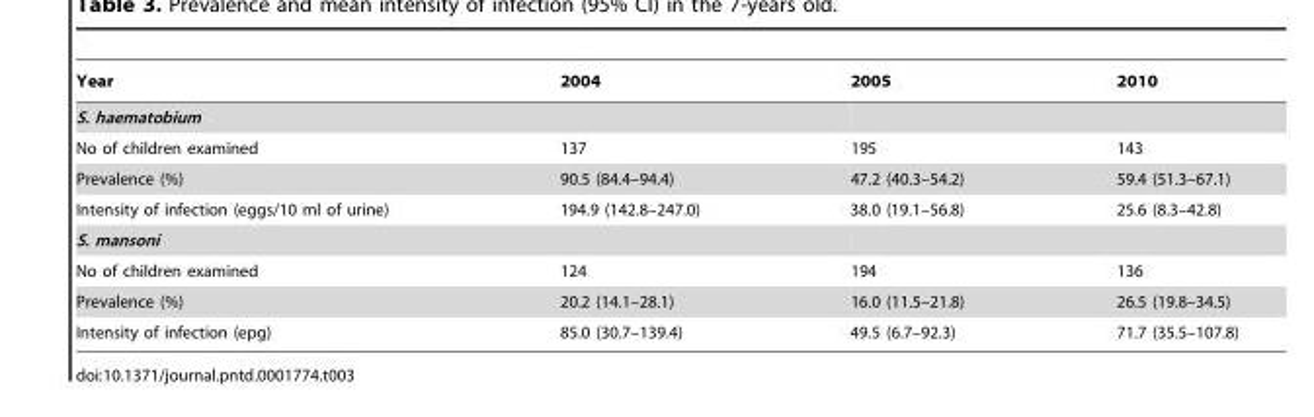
<table><thead><tr><td>Year</td><td>2004</td><td>2005</td><td>2010</td></tr></thead><tbody><tr><td colspan="4">S. haematobium</td></tr><tr><td>No of children examined</td><td>137</td><td>195</td><td>143</td></tr><tr><td>Prevalence (%)</td><td>90.5 (84.4–94.4)</td><td>47.2 (40.3–54.2)</td><td>59.4 (51.3–67.1)</td></tr><tr><td>Intensity of infection (eggs/10 ml of urine)</td><td>194.9 (142.8–247.0)</td><td>38.0 (19.1–56.8)</td><td>25.6 (8.3–42.8)</td></tr><tr><td colspan="4">S. mansoni</td></tr><tr><td>No of children examined</td><td>124</td><td>194</td><td>136</td></tr><tr><td>Prevalence (%)</td><td>20.2 (14.1–28.1)</td><td>16.0 (11.5–21.8)</td><td>26.5 (19.8–34.5)</td></tr><tr><td>Intensity of infection (epg)</td><td>85.0 (30.7–139.4)</td><td>49.5 (6.7–92.3)</td><td>71.7 (35.5–107.8)</td></tr></tbody></table>